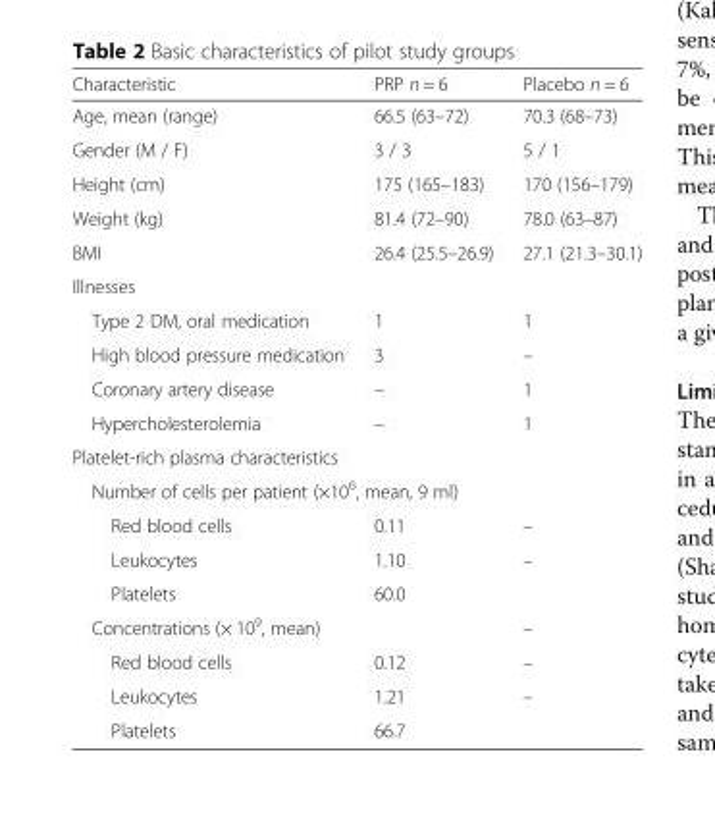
<table><thead><tr><td>Characteristic</td><td>PRP n = 6</td><td>Placebo n = 6</td></tr></thead><tbody><tr><td>Age, mean (range)</td><td>66.5 (63–72)</td><td>70.3 (68–73)</td></tr><tr><td>Gender (M / F)</td><td>3 / 3</td><td>5 / 1</td></tr><tr><td>Height (cm)</td><td>175 (165–183)</td><td>170 (156–179)</td></tr><tr><td>Weight (kg)</td><td>81.4 (72–90)</td><td>78.0 (63–87)</td></tr><tr><td>BMI</td><td>26.4 (25.5–26.9)</td><td>27.1 (21.3–30.1)</td></tr><tr><td colspan="3">Illnesses</td></tr><tr><td>Type 2 DM, oral medication</td><td>1</td><td>1</td></tr><tr><td>High blood pressure medication</td><td>3</td><td>–</td></tr><tr><td>Coronary artery disease</td><td>–</td><td>1</td></tr><tr><td>Hypercholesterolemia</td><td>–</td><td>1</td></tr><tr><td colspan="3">Platelet-rich plasma characteristics</td></tr><tr><td colspan="3">Number of cells per patient (×10<sup>6</sup>, mean, 9 ml)</td></tr><tr><td>Red blood cells</td><td>0.11</td><td>–</td></tr><tr><td>Leukocytes</td><td>1.10</td><td>–</td></tr><tr><td>Platelets</td><td>60.0</td><td></td></tr><tr><td>Concentrations (× 10<sup>9</sup>, mean)</td><td></td><td>–</td></tr><tr><td>Red blood cells</td><td>0.12</td><td>–</td></tr><tr><td>Leukocytes</td><td>1.21</td><td>–</td></tr><tr><td>Platelets</td><td>66.7</td><td></td></tr></tbody></table>